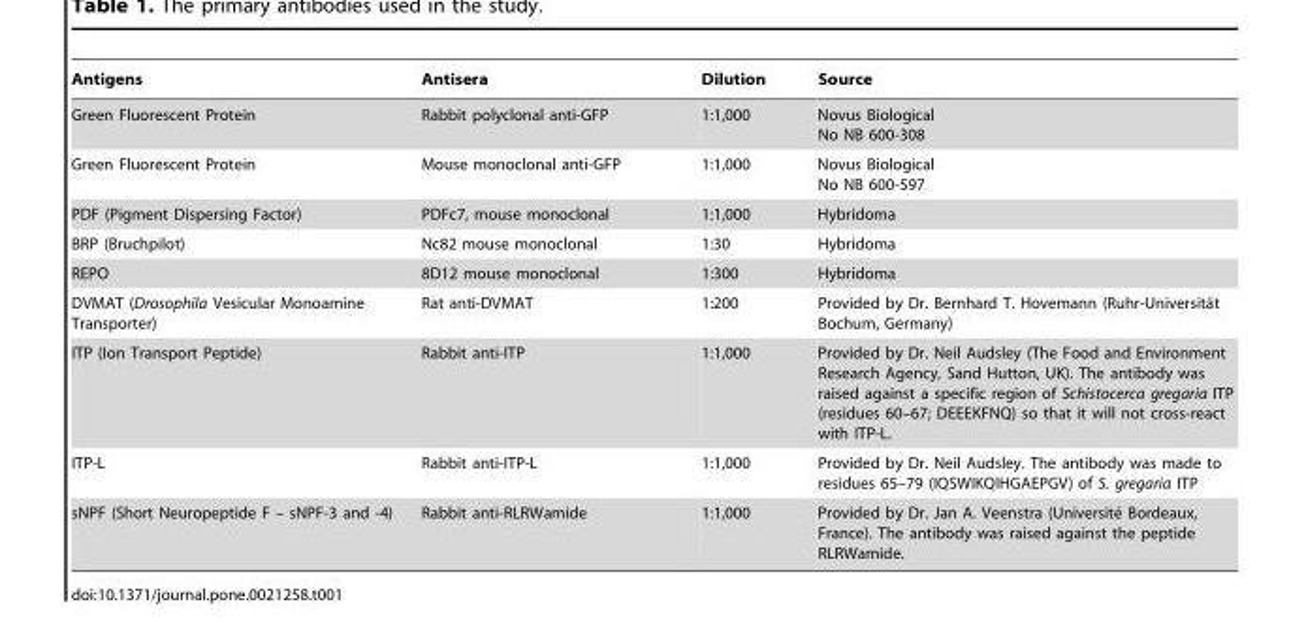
<table><thead><tr><td>Antigens</td><td>Antisera</td><td>Dilution</td><td>Source</td></tr></thead><tbody><tr><td>Green Fluorescent Protein</td><td>Rabbit polyclonal anti-GFP</td><td>1:1,000</td><td>Novus Biological No NB 600-308</td></tr><tr><td>Green Fluorescent Protein</td><td>Mouse monoclonal anti-GFP</td><td>1:1,000</td><td>Novus Biological No NB 600-597</td></tr><tr><td>PDF (Pigment Dispersing Factor)</td><td>PDFc7, mouse monoclonal</td><td>1:1,000</td><td>Hybridoma</td></tr><tr><td>BRP (Bruchpilot)</td><td>Nc82 mouse monoclonal</td><td>1:30</td><td>Hybridoma</td></tr><tr><td>REPO</td><td>8D12 mouse monoclonal</td><td>1:300</td><td>Hybridoma</td></tr><tr><td>DVMAT (Drosophila Vesicular Monoamine Transporter)</td><td>Rat anti-DVMAT</td><td>1:200</td><td>Provided by Dr. Bernhard T. Hovemann (Ruhr-Universita¨t Bochum, Germany)</td></tr><tr><td>ITP (Ion Transport Peptide)</td><td>Rabbit anti-ITP</td><td>1:1,000</td><td>Provided by Dr. Neil Audsley (The Food and Environment Research Agency, Sand Hutton, UK). The antibody was raised against a specific region of Schistocerca gregaria ITP (residues 60–67; DEEEKFNQ) so that it will not cross-react with ITP-L.</td></tr><tr><td>ITP-L</td><td>Rabbit anti-ITP-L</td><td>1:1,000</td><td>Provided by Dr. Neil Audsley. The antibody was made to residues 65–79 (IQSWIKQIHGAEPGV) of S. gregaria ITP</td></tr><tr><td>sNPF (Short Neuropeptide F – sNPF-3 and -4)</td><td>Rabbit anti-RLRWamide</td><td>1:1,000</td><td>Provided by Dr. Jan A. Veenstra (Universite´ Bordeaux, France). The antibody was raised against the peptide RLRWamide.</td></tr></tbody></table>